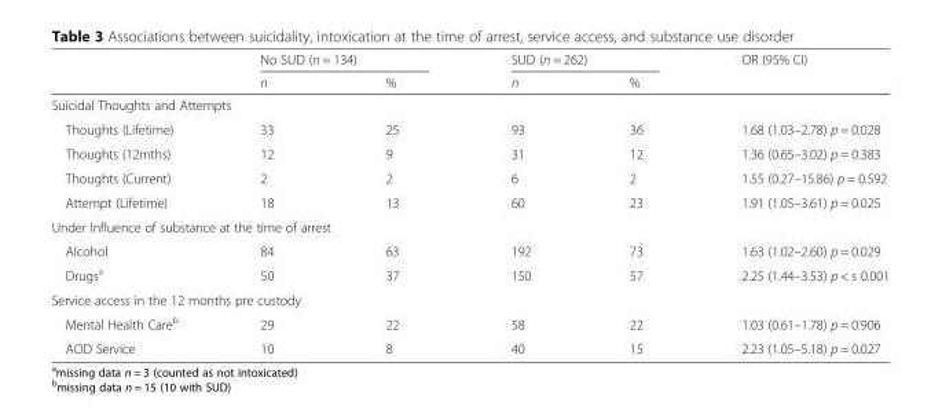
<table><thead><tr><td rowspan="2"></td><td colspan="2">No SUD (n = 134)</td><td colspan="2">SUD (n = 262)</td><td rowspan="2">OR (95% CI)</td></tr><tr><td>n</td><td>%</td><td>n</td><td>%</td></tr></thead><tbody><tr><td colspan="6">Suicidal Thoughts and Attempts</td></tr><tr><td>Thoughts (Lifetime)</td><td>33</td><td>25</td><td>93</td><td>36</td><td>1.68 (1.03–2.78) p = 0.028</td></tr><tr><td>Thoughts (12mths)</td><td>12</td><td>9</td><td>31</td><td>12</td><td>1.36 (0.65–3.02) p = 0.383</td></tr><tr><td>Thoughts (Current)</td><td>2</td><td>2</td><td>6</td><td>2</td><td>1.55 (0.27–15.86) p = 0.592</td></tr><tr><td>Attempt (Lifetime)</td><td>18</td><td>13</td><td>60</td><td>23</td><td>1.91 (1.05–3.61) p = 0.025</td></tr><tr><td colspan="6">Under Influence of substance at the time of arrest</td></tr><tr><td>Alcohol</td><td>84</td><td>63</td><td>192</td><td>73</td><td>1.63 (1.02–2.60) p = 0.029</td></tr><tr><td>Drugs<sup>a</sup></td><td>50</td><td>37</td><td>150</td><td>57</td><td>2.25 (1.44–3.53) p &lt; s 0.001</td></tr><tr><td colspan="6">Service access in the 12 months pre custody</td></tr><tr><td>Mental Health Care<sup>b</sup></td><td>29</td><td>22</td><td>58</td><td>22</td><td>1.03 (0.61–1.78) p = 0.906</td></tr><tr><td>AOD Service</td><td>10</td><td>8</td><td>40</td><td>15</td><td>2.23 (1.05–5.18) p = 0.027</td></tr></tbody></table>